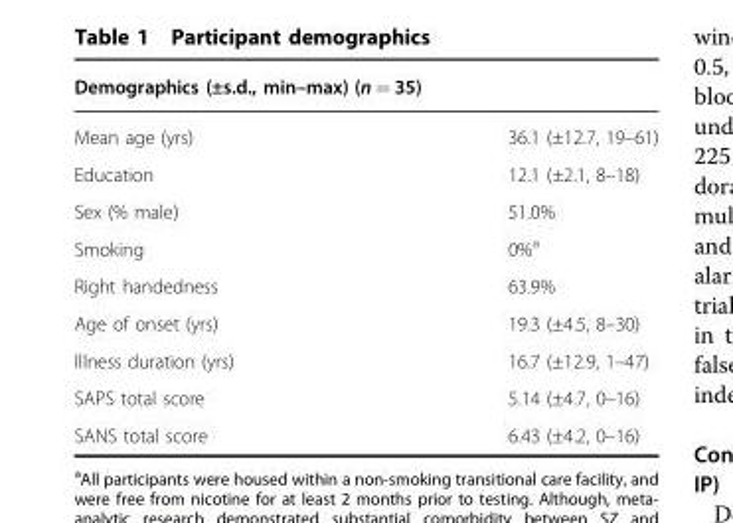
<table><thead><tr><td colspan="2">Demographics (±s.d., min–max) (n = 35)</td></tr><tr><td>Mean age (yrs)</td><td>36.1 (±12.7, 19–61)</td></tr></thead><tbody><tr><td>Education</td><td>12.1 (±2.1, 8–18)</td></tr><tr><td>Sex (% male)</td><td>51.0%</td></tr><tr><td>Smoking</td><td>0%<sup>a</sup></td></tr><tr><td>Right handedness</td><td>63.9%</td></tr><tr><td>Age of onset (yrs)</td><td>19.3 (±4.5, 8–30)</td></tr><tr><td>Illness duration (yrs)</td><td>16.7 (±12.9, 1–47)</td></tr><tr><td>SAPS total score</td><td>5.14 (±4.7, 0–16)</td></tr><tr><td>SANS total score</td><td>6.43 (±4.2, 0–16)</td></tr></tbody></table>